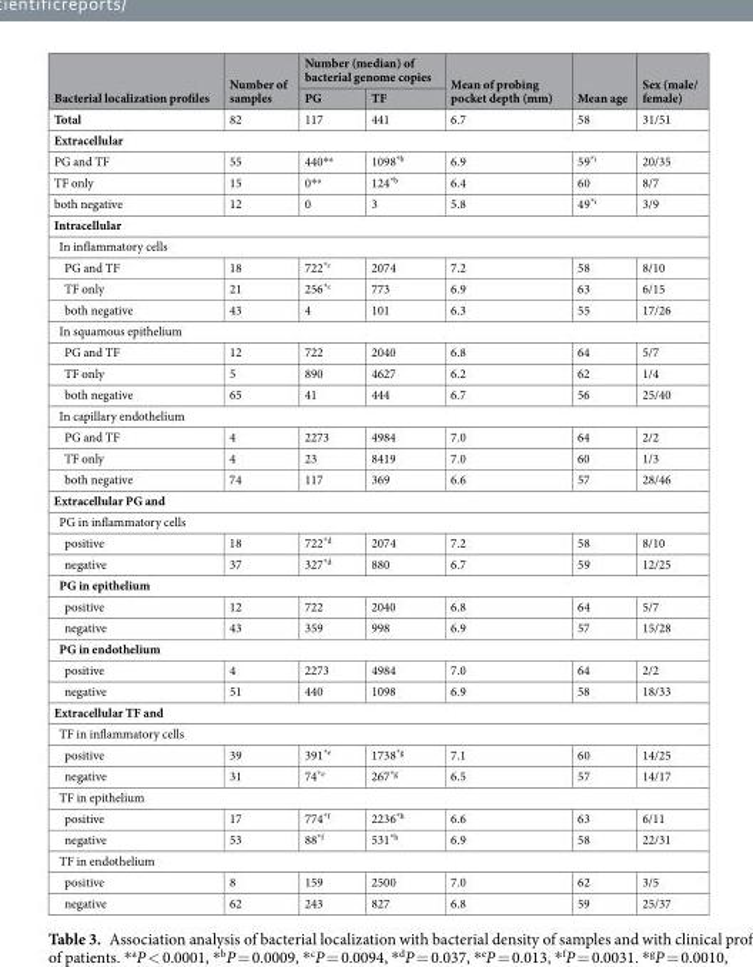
<table><thead><tr><td rowspan="2">Bacterial localization profiles</td><td rowspan="2">Number of samples</td><td colspan="2">Number (median) of bacterial genome copies</td><td rowspan="2">Mean of probing pocket depth (mm)</td><td rowspan="2">Mean age</td><td rowspan="2">Sex (male/ female)</td></tr><tr><td>PG</td><td>TF</td></tr></thead><tbody><tr><td>Total</td><td>82</td><td>117</td><td>441</td><td>6.7</td><td>58</td><td>31/51</td></tr><tr><td colspan="7">Extracellular</td></tr><tr><td>PG and TF</td><td>55</td><td>440*<sup>a</sup></td><td>1098<sup>*b</sup></td><td>6.9</td><td>59<sup>*i</sup></td><td>20/35</td></tr><tr><td>TF only</td><td>15</td><td>0*<sup>a</sup></td><td>124<sup>*b</sup></td><td>6.4</td><td>60</td><td>8/7</td></tr><tr><td>both negative</td><td>12</td><td>0</td><td>3</td><td>5.8</td><td>49<sup>*i</sup></td><td>3/9</td></tr><tr><td colspan="7">Intracellular</td></tr><tr><td colspan="7">In inflammatory cells</td></tr><tr><td>PG and TF</td><td>18</td><td>722<sup>*c</sup></td><td>2074</td><td>7.2</td><td>58</td><td>8/10</td></tr><tr><td>TF only</td><td>21</td><td>256<sup>*c</sup></td><td>773</td><td>6.9</td><td>63</td><td>6/15</td></tr><tr><td>both negative</td><td>43</td><td>4</td><td>101</td><td>6.3</td><td>55</td><td>17/26</td></tr><tr><td colspan="7">In squamous epithelium</td></tr><tr><td>PG and TF</td><td>12</td><td>722</td><td>2040</td><td>6.8</td><td>64</td><td>5/7</td></tr><tr><td>TF only</td><td>5</td><td>890</td><td>4627</td><td>6.2</td><td>62</td><td>1/4</td></tr><tr><td>both negative</td><td>65</td><td>41</td><td>444</td><td>6.7</td><td>56</td><td>25/40</td></tr><tr><td colspan="7">In capillary endothelium</td></tr><tr><td>PG and TF</td><td>4</td><td>2273</td><td>4984</td><td>7.0</td><td>64</td><td>2/2</td></tr><tr><td>TF only</td><td>4</td><td>23</td><td>8419</td><td>7.0</td><td>60</td><td>1/3</td></tr><tr><td>both negative</td><td>74</td><td>117</td><td>369</td><td>6.6</td><td>57</td><td>28/46</td></tr><tr><td colspan="7">Extracellular PG and</td></tr><tr><td colspan="7">PG in inflammatory cells</td></tr><tr><td>positive</td><td>18</td><td>722<sup>*d</sup></td><td>2074</td><td>7.2</td><td>58</td><td>8/10</td></tr><tr><td>negative</td><td>37</td><td>327<sup>*d</sup></td><td>880</td><td>6.7</td><td>59</td><td>12/25</td></tr><tr><td colspan="7">PG in epithelium</td></tr><tr><td>positive</td><td>12</td><td>722</td><td>2040</td><td>6.8</td><td>64</td><td>5/7</td></tr><tr><td>negative</td><td>43</td><td>359</td><td>998</td><td>6.9</td><td>57</td><td>15/28</td></tr><tr><td colspan="7">PG in endothelium</td></tr><tr><td>positive</td><td>4</td><td>2273</td><td>4984</td><td>7.0</td><td>64</td><td>2/2</td></tr><tr><td>negative</td><td>51</td><td>440</td><td>1098</td><td>6.9</td><td>58</td><td>18/33</td></tr><tr><td colspan="7">Extracellular TF and</td></tr><tr><td colspan="7">TF in inflammatory cells</td></tr><tr><td>positive</td><td>39</td><td>391<sup>*e</sup></td><td>1738<sup>*g</sup></td><td>7.1</td><td>60</td><td>14/25</td></tr><tr><td>negative</td><td>31</td><td>74<sup>*e</sup></td><td>267<sup>*g</sup></td><td>6.5</td><td>57</td><td>14/17</td></tr><tr><td colspan="7">TF in epithelium</td></tr><tr><td>positive</td><td>17</td><td>774<sup>*f</sup></td><td>2236<sup>*h</sup></td><td>6.6</td><td>63</td><td>6/11</td></tr><tr><td>negative</td><td>53</td><td>88<sup>*f</sup></td><td>531<sup>*h</sup></td><td>6.9</td><td>58</td><td>22/31</td></tr><tr><td colspan="7">TF in endothelium</td></tr><tr><td>positive</td><td>8</td><td>159</td><td>2500</td><td>7.0</td><td>62</td><td>3/5</td></tr><tr><td>negative</td><td>62</td><td>243</td><td>827</td><td>6.8</td><td>59</td><td>25/37</td></tr></tbody></table>